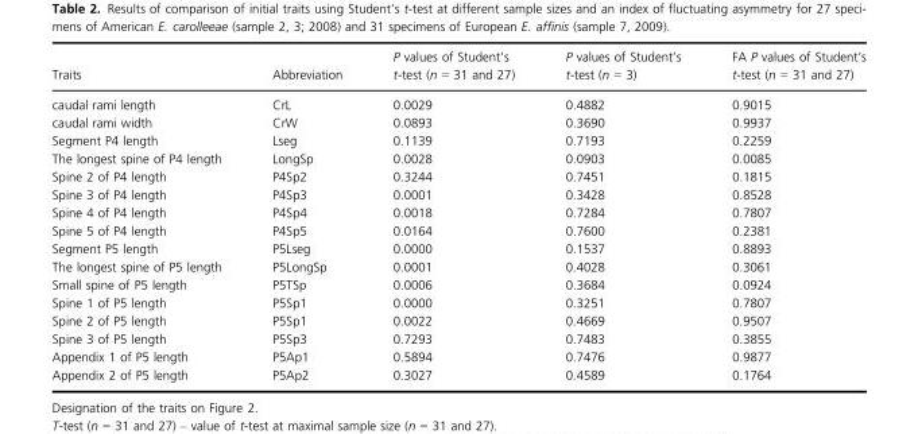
<table><thead><tr><td>Traits</td><td>Abbreviation</td><td>P values of Student’s t-test (n = 31 and 27)</td><td>P values of Student’s t-test (n = 3)</td><td>FA P values of Student’s t-test (n = 31 and 27)</td></tr></thead><tbody><tr><td>caudal rami length</td><td>CrL</td><td>0.0029</td><td>0.4882</td><td>0.9015</td></tr><tr><td>caudal rami width</td><td>CrW</td><td>0.0893</td><td>0.3690</td><td>0.9937</td></tr><tr><td>Segment P4 length</td><td>Lseg</td><td>0.1139</td><td>0.7193</td><td>0.2259</td></tr><tr><td>The longest spine of P4 length</td><td>LongSp</td><td>0.0028</td><td>0.0903</td><td>0.0085</td></tr><tr><td>Spine 2 of P4 length</td><td>P4Sp2</td><td>0.3244</td><td>0.7451</td><td>0.1815</td></tr><tr><td>Spine 3 of P4 length</td><td>P4Sp3</td><td>0.0001</td><td>0.3428</td><td>0.8528</td></tr><tr><td>Spine 4 of P4 length</td><td>P4Sp4</td><td>0.0018</td><td>0.7284</td><td>0.7807</td></tr><tr><td>Spine 5 of P4 length</td><td>P4Sp5</td><td>0.0164</td><td>0.7600</td><td>0.2381</td></tr><tr><td>Segment P5 length</td><td>P5Lseg</td><td>0.0000</td><td>0.1537</td><td>0.8893</td></tr><tr><td>The longest spine of P5 length</td><td>P5LongSp</td><td>0.0001</td><td>0.4028</td><td>0.3061</td></tr><tr><td>Small spine of P5 length</td><td>P5TSp</td><td>0.0006</td><td>0.3684</td><td>0.0924</td></tr><tr><td>Spine 1 of P5 length</td><td>P5Sp1</td><td>0.0000</td><td>0.3251</td><td>0.7807</td></tr><tr><td>Spine 2 of P5 length</td><td>P5Sp1</td><td>0.0022</td><td>0.4669</td><td>0.9507</td></tr><tr><td>Spine 3 of P5 length</td><td>P5Sp3</td><td>0.7293</td><td>0.7483</td><td>0.3855</td></tr><tr><td>Appendix 1 of P5 length</td><td>P5Ap1</td><td>0.5894</td><td>0.7476</td><td>0.9877</td></tr><tr><td>Appendix 2 of P5 length</td><td>P5Ap2</td><td>0.3027</td><td>0.4589</td><td>0.1764</td></tr></tbody></table>